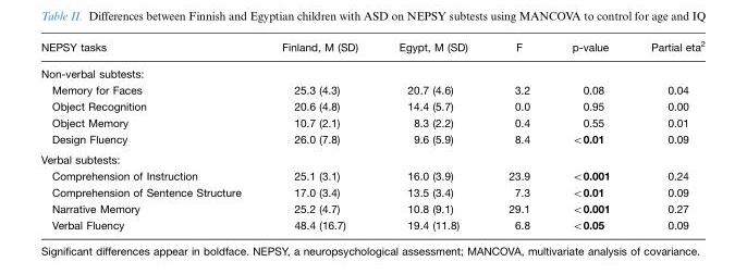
<table><thead><tr><td>NEPSY tasks</td><td>Finland, M (SD)</td><td>Egypt, M (SD)</td><td>F</td><td>p-value</td><td>Partial eta<sup>2</sup></td></tr></thead><tbody><tr><td colspan="6">Non-verbal subtests:</td></tr><tr><td>Memory for Faces</td><td>25.3 (4.3)</td><td>20.7 (4.6)</td><td>3.2</td><td>0.08</td><td>0.04</td></tr><tr><td>Object Recognition</td><td>20.6 (4.8)</td><td>14.4 (5.7)</td><td>0.0</td><td>0.95</td><td>0.00</td></tr><tr><td>Object Memory</td><td>10.7 (2.1)</td><td>8.3 (2.2)</td><td>0.4</td><td>0.55</td><td>0.01</td></tr><tr><td>Design Fluency</td><td>26.0 (7.8)</td><td>9.6 (5.9)</td><td>8.4</td><td>&lt;0.01</td><td>0.09</td></tr><tr><td colspan="6">Verbal subtests:</td></tr><tr><td>Comprehension of Instruction</td><td>25.1 (3.1)</td><td>16.0 (3.9)</td><td>23.9</td><td>&lt;0.001</td><td>0.24</td></tr><tr><td>Comprehension of Sentence Structure</td><td>17.0 (3.4)</td><td>13.5 (3.4)</td><td>7.3</td><td>&lt;0.01</td><td>0.09</td></tr><tr><td>Narrative Memory</td><td>25.2 (4.7)</td><td>10.8 (9.1)</td><td>29.1</td><td>&lt;0.001</td><td>0.27</td></tr><tr><td>Verbal Fluency</td><td>48.4 (16.7)</td><td>19.4 (11.8)</td><td>6.8</td><td>&lt;0.05</td><td>0.09</td></tr></tbody></table>